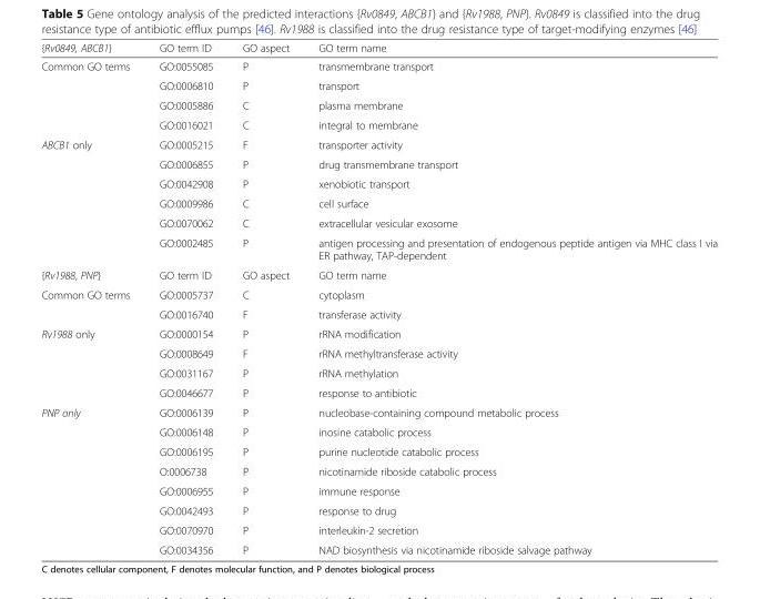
<table><thead><tr><td>{Rv0849, ABCB1}</td><td>GO term ID</td><td>GO aspect</td><td>GO term name</td></tr></thead><tbody><tr><td rowspan="4">Common GO terms</td><td>GO:0055085</td><td>P</td><td>transmembrane transport</td></tr><tr><td>GO:0006810</td><td>P</td><td>transport</td></tr><tr><td>GO:0005886</td><td>C</td><td>plasma membrane</td></tr><tr><td>GO:0016021</td><td>C</td><td>integral to membrane</td></tr><tr><td rowspan="6">ABCB1 only</td><td>GO:0005215</td><td>F</td><td>transporter activity</td></tr><tr><td>GO:0006855</td><td>P</td><td>drug transmembrane transport</td></tr><tr><td>GO:0042908</td><td>P</td><td>xenobiotic transport</td></tr><tr><td>GO:0009986</td><td>C</td><td>cell surface</td></tr><tr><td>GO:0070062</td><td>C</td><td>extracellular vesicular exosome</td></tr><tr><td>GO:0002485</td><td>P</td><td>antigen processing and presentation of endogenous peptide antigen via MHC class I via ER pathway, TAP-dependent</td></tr><tr><td>{Rv1988, PNP}</td><td>GO term ID</td><td>GO aspect</td><td>GO term name</td></tr><tr><td rowspan="2">Common GO terms</td><td>GO:0005737</td><td>C</td><td>cytoplasm</td></tr><tr><td>GO:0016740</td><td>F</td><td>transferase activity</td></tr><tr><td rowspan="4">Rv1988 only</td><td>GO:0000154</td><td>P</td><td>rRNA modification</td></tr><tr><td>GO:0008649</td><td>F</td><td>rRNA methyltransferase activity</td></tr><tr><td>GO:0031167</td><td>P</td><td>rRNA methylation</td></tr><tr><td>GO:0046677</td><td>P</td><td>response to antibiotic</td></tr><tr><td rowspan="8">PNP only</td><td>GO:0006139</td><td>P</td><td>nucleobase-containing compound metabolic process</td></tr><tr><td>GO:0006148</td><td>P</td><td>inosine catabolic process</td></tr><tr><td>GO:0006195</td><td>P</td><td>purine nucleotide catabolic process</td></tr><tr><td>O:0006738</td><td>P</td><td>nicotinamide riboside catabolic process</td></tr><tr><td>GO:0006955</td><td>P</td><td>immune response</td></tr><tr><td>GO:0042493</td><td>P</td><td>response to drug</td></tr><tr><td>GO:0070970</td><td>P</td><td>interleukin-2 secretion</td></tr><tr><td>GO:0034356</td><td>P</td><td>NAD biosynthesis via nicotinamide riboside salvage pathway</td></tr></tbody></table>